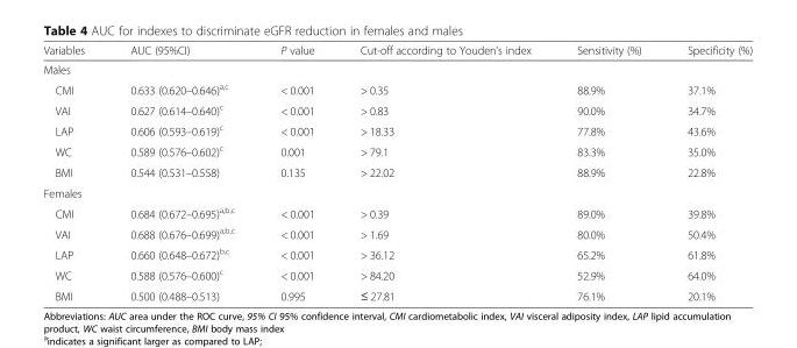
<table><thead><tr><td>Variables</td><td>AUC (95%CI)</td><td>P value</td><td>Cut-off according to Youden’s index</td><td>Sensitivity (%)</td><td>Specificity (%)</td></tr></thead><tbody><tr><td colspan="6">Males</td></tr><tr><td>CMI</td><td>0.633 (0.620–0.646)<sup>a,c</sup></td><td>&lt; 0.001</td><td>&gt; 0.35</td><td>88.9%</td><td>37.1%</td></tr><tr><td>VAI</td><td>0.627 (0.614–0.640)<sup>c</sup></td><td>&lt; 0.001</td><td>&gt; 0.83</td><td>90.0%</td><td>34.7%</td></tr><tr><td>LAP</td><td>0.606 (0.593–0.619)<sup>c</sup></td><td>&lt; 0.001</td><td>&gt; 18.33</td><td>77.8%</td><td>43.6%</td></tr><tr><td>WC</td><td>0.589 (0.576–0.602)<sup>c</sup></td><td>0.001</td><td>&gt; 79.1</td><td>83.3%</td><td>35.0%</td></tr><tr><td>BMI</td><td>0.544 (0.531–0.558)</td><td>0.135</td><td>&gt; 22.02</td><td>88.9%</td><td>22.8%</td></tr><tr><td colspan="6">Females</td></tr><tr><td>CMI</td><td>0.684 (0.672–0.695)<sup>a,b,c</sup></td><td>&lt; 0.001</td><td>&gt; 0.39</td><td>89.0%</td><td>39.8%</td></tr><tr><td>VAI</td><td>0.688 (0.676–0.699)<sup>a,b,c</sup></td><td>&lt; 0.001</td><td>&gt; 1.69</td><td>80.0%</td><td>50.4%</td></tr><tr><td>LAP</td><td>0.660 (0.648–0.672)<sup>b,c</sup></td><td>&lt; 0.001</td><td>&gt; 36.12</td><td>65.2%</td><td>61.8%</td></tr><tr><td>WC</td><td>0.588 (0.576–0.600)<sup>c</sup></td><td>&lt; 0.001</td><td>&gt; 84.20</td><td>52.9%</td><td>64.0%</td></tr><tr><td>BMI</td><td>0.500 (0.488–0.513)</td><td>0.995</td><td>≤ 27.81</td><td>76.1%</td><td>20.1%</td></tr></tbody></table>